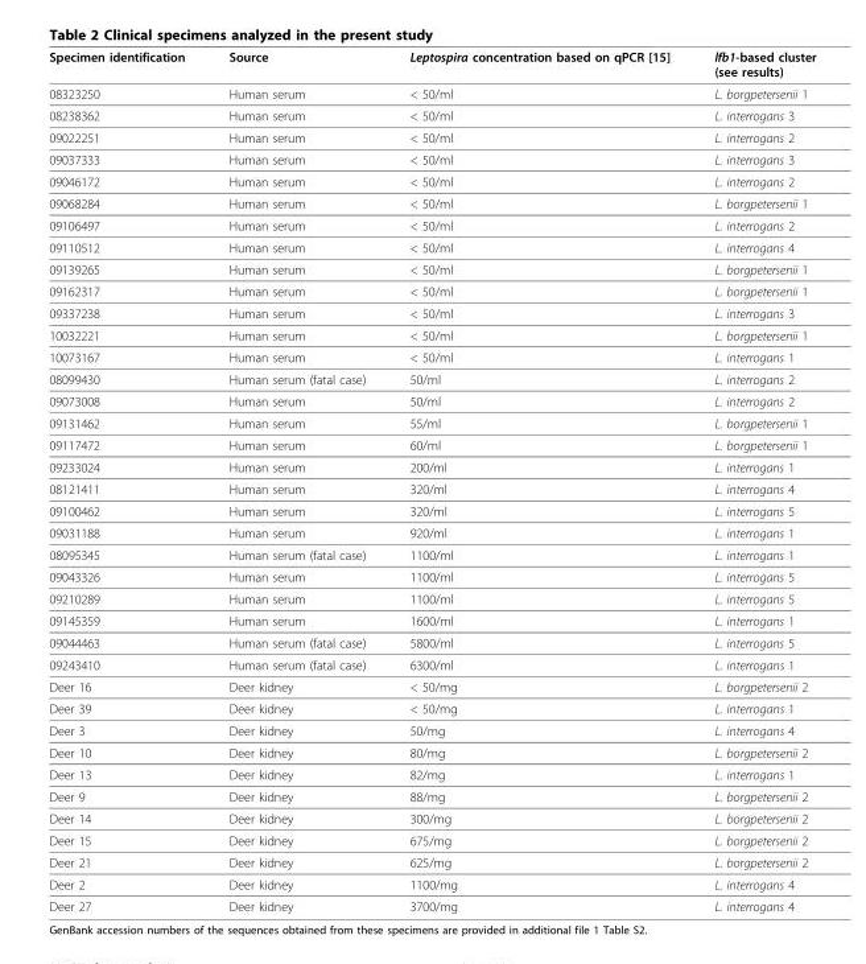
<table><thead><tr><td>Specimen identification</td><td>Source</td><td>Leptospira concentration based on qPCR [15]</td><td>lfb1-based cluster (see results)</td></tr></thead><tbody><tr><td>08323250</td><td>Human serum</td><td>&lt; 50/ml</td><td>L. borgpetersenii 1</td></tr><tr><td>08238362</td><td>Human serum</td><td>&lt; 50/ml</td><td>L. interrogans 3</td></tr><tr><td>09022251</td><td>Human serum</td><td>&lt; 50/ml</td><td>L. interrogans 2</td></tr><tr><td>09037333</td><td>Human serum</td><td>&lt; 50/ml</td><td>L. interrogans 3</td></tr><tr><td>09046172</td><td>Human serum</td><td>&lt; 50/ml</td><td>L. interrogans 2</td></tr><tr><td>09068284</td><td>Human serum</td><td>&lt; 50/ml</td><td>L. borgpetersenii 1</td></tr><tr><td>09106497</td><td>Human serum</td><td>&lt; 50/ml</td><td>L. interrogans 2</td></tr><tr><td>09110512</td><td>Human serum</td><td>&lt; 50/ml</td><td>L. interrogans 4</td></tr><tr><td>09139265</td><td>Human serum</td><td>&lt; 50/ml</td><td>L. borgpetersenii 1</td></tr><tr><td>09162317</td><td>Human serum</td><td>&lt; 50/ml</td><td>L. borgpetersenii 1</td></tr><tr><td>09337238</td><td>Human serum</td><td>&lt; 50/ml</td><td>L. interrogans 3</td></tr><tr><td>10032221</td><td>Human serum</td><td>&lt; 50/ml</td><td>L. borgpetersenii 1</td></tr><tr><td>10073167</td><td>Human serum</td><td>&lt; 50/ml</td><td>L. interrogans 1</td></tr><tr><td>08099430</td><td>Human serum (fatal case)</td><td>50/ml</td><td>L. interrogans 2</td></tr><tr><td>09073008</td><td>Human serum</td><td>50/ml</td><td>L. interrogans 2</td></tr><tr><td>09131462</td><td>Human serum</td><td>55/ml</td><td>L. borgpetersenii 1</td></tr><tr><td>09117472</td><td>Human serum</td><td>60/ml</td><td>L. borgpetersenii 1</td></tr><tr><td>09233024</td><td>Human serum</td><td>200/ml</td><td>L. interrogans 1</td></tr><tr><td>08121411</td><td>Human serum</td><td>320/ml</td><td>L. interrogans 4</td></tr><tr><td>09100462</td><td>Human serum</td><td>320/ml</td><td>L. interrogans 5</td></tr><tr><td>09031188</td><td>Human serum</td><td>920/ml</td><td>L. interrogans 1</td></tr><tr><td>08095345</td><td>Human serum (fatal case)</td><td>1100/ml</td><td>L. interrogans 1</td></tr><tr><td>09043326</td><td>Human serum</td><td>1100/ml</td><td>L. interrogans 5</td></tr><tr><td>09210289</td><td>Human serum</td><td>1100/ml</td><td>L. interrogans 5</td></tr><tr><td>09145359</td><td>Human serum</td><td>1600/ml</td><td>L. interrogans 1</td></tr><tr><td>09044463</td><td>Human serum (fatal case)</td><td>5800/ml</td><td>L. interrogans 5</td></tr><tr><td>09243410</td><td>Human serum (fatal case)</td><td>6300/ml</td><td>L. interrogans 1</td></tr><tr><td>Deer 16</td><td>Deer kidney</td><td>&lt; 50/mg</td><td>L. borgpetersenii 2</td></tr><tr><td>Deer 39</td><td>Deer kidney</td><td>&lt; 50/mg</td><td>L. interrogans 1</td></tr><tr><td>Deer 3</td><td>Deer kidney</td><td>50/mg</td><td>L. interrogans 4</td></tr><tr><td>Deer 10</td><td>Deer kidney</td><td>80/mg</td><td>L. borgpetersenii 2</td></tr><tr><td>Deer 13</td><td>Deer kidney</td><td>82/mg</td><td>L. interrogans 1</td></tr><tr><td>Deer 9</td><td>Deer kidney</td><td>88/mg</td><td>L. borgpetersenii 2</td></tr><tr><td>Deer 14</td><td>Deer kidney</td><td>300/mg</td><td>L. borgpetersenii 2</td></tr><tr><td>Deer 15</td><td>Deer kidney</td><td>675/mg</td><td>L. borgpetersenii 2</td></tr><tr><td>Deer 21</td><td>Deer kidney</td><td>625/mg</td><td>L. borgpetersenii 2</td></tr><tr><td>Deer 2</td><td>Deer kidney</td><td>1100/mg</td><td>L. interrogans 4</td></tr><tr><td>Deer 27</td><td>Deer kidney</td><td>3700/mg</td><td>L. interrogans 4</td></tr></tbody></table>